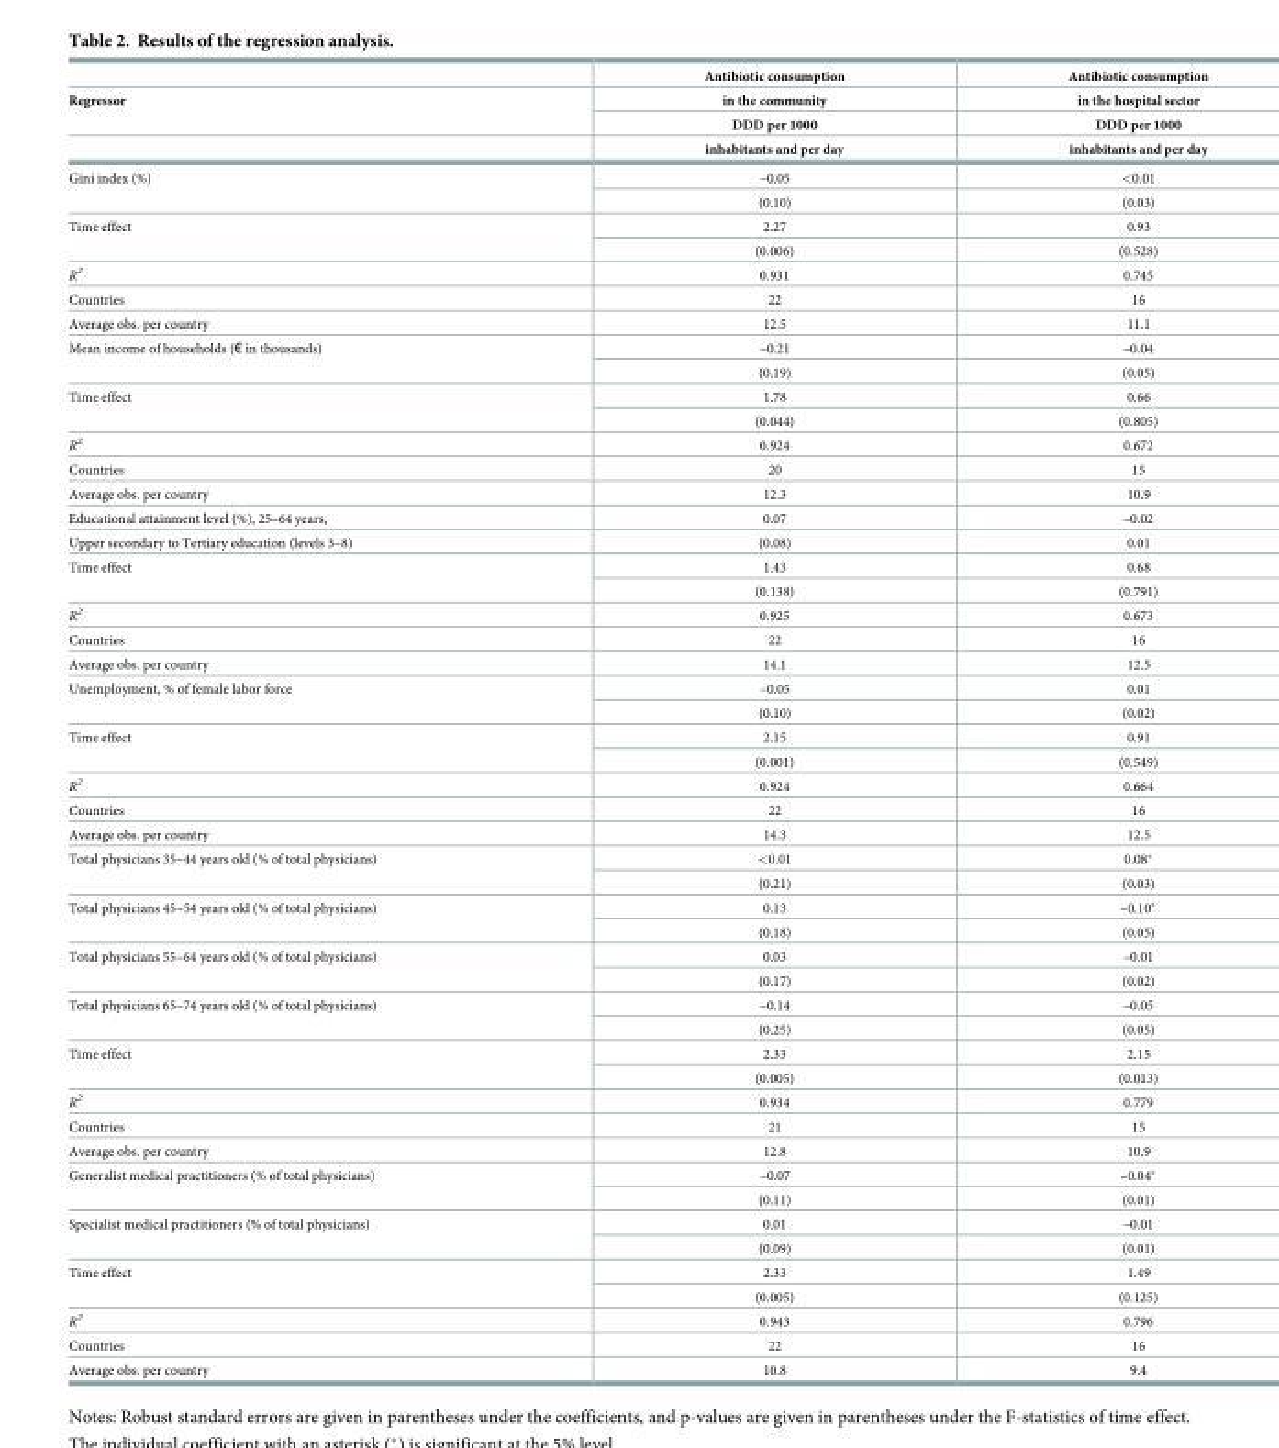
<table><thead><tr><td rowspan="4">Regressor</td><td rowspan="4">Antibiotic consumption in the community DDD per 1000 inhabitants and per day</td><td rowspan="4">Antibiotic consumption in the hospital sector DDD per 1000 inhabitants and per day</td></tr><tr></tr><tr></tr><tr></tr></thead><tbody><tr><td rowspan="2">Gini index (%)</td><td>–0.05</td><td>&lt;0.01</td></tr><tr><td>(0.10)</td><td>(0.03)</td></tr><tr><td rowspan="2">Time effect</td><td>2.27</td><td>0.93</td></tr><tr><td>(0.006)</td><td>(0.528)</td></tr><tr><td>R<sup>2</sup></td><td>0.931</td><td>0.745</td></tr><tr><td>Countries</td><td>22</td><td>16</td></tr><tr><td>Average obs. per country</td><td>12.5</td><td>11.1</td></tr><tr><td rowspan="2">Mean income of households (€ in thousands)</td><td>–0.21</td><td>–0.04</td></tr><tr><td>(0.19)</td><td>(0.05)</td></tr><tr><td rowspan="2">Time effect</td><td>1.78</td><td>0.66</td></tr><tr><td>(0.044)</td><td>(0.805)</td></tr><tr><td>R<sup>2</sup></td><td>0.924</td><td>0.672</td></tr><tr><td>Countries</td><td>20</td><td>15</td></tr><tr><td>Average obs. per country</td><td>12.3</td><td>10.9</td></tr><tr><td>Educational attainment level (%), 25–64 years,</td><td>0.07</td><td>–0.02</td></tr><tr><td>Upper secondary to Tertiary education (levels 3–8)</td><td>(0.08)</td><td>0.01</td></tr><tr><td rowspan="2">Time effect</td><td>1.43</td><td>0.68</td></tr><tr><td>(0.138)</td><td>(0.791)</td></tr><tr><td>R<sup>2</sup></td><td>0.925</td><td>0.673</td></tr><tr><td>Countries</td><td>22</td><td>16</td></tr><tr><td>Average obs. per country</td><td>14.1</td><td>12.5</td></tr><tr><td rowspan="2">Unemployment, % of female labor force</td><td>–0.05</td><td>0.01</td></tr><tr><td>(0.10)</td><td>(0.02)</td></tr><tr><td rowspan="2">Time effect</td><td>2.15</td><td>0.91</td></tr><tr><td>(0.001)</td><td>(0.549)</td></tr><tr><td>R<sup>2</sup></td><td>0.924</td><td>0.664</td></tr><tr><td>Countries</td><td>22</td><td>16</td></tr><tr><td>Average obs. per country</td><td>14.3</td><td>12.5</td></tr><tr><td rowspan="2">Total physicians 35–44 years old (% of total physicians)</td><td>&lt;0.01</td><td>0.08*</td></tr><tr><td>(0.21)</td><td>(0.03)</td></tr><tr><td rowspan="2">Total physicians 45–54 years old (% of total physicians)</td><td>0.13</td><td>–0.10*</td></tr><tr><td>(0.18)</td><td>(0.05)</td></tr><tr><td rowspan="2">Total physicians 55–64 years old (% of total physicians)</td><td>0.03</td><td>–0.01</td></tr><tr><td>(0.17)</td><td>(0.02)</td></tr><tr><td rowspan="2">Total physicians 65–74 years old (% of total physicians)</td><td>–0.14</td><td>–0.05</td></tr><tr><td>(0.25)</td><td>(0.05)</td></tr><tr><td rowspan="2">Time effect</td><td>2.33</td><td>2.15</td></tr><tr><td>(0.005)</td><td>(0.013)</td></tr><tr><td>R<sup>2</sup></td><td>0.934</td><td>0.779</td></tr><tr><td>Countries</td><td>21</td><td>15</td></tr><tr><td>Average obs. per country</td><td>12.8</td><td>10.9</td></tr><tr><td rowspan="2">Generalist medical practitioners (% of total physicians)</td><td>–0.07</td><td>–0.04*</td></tr><tr><td>(0.11)</td><td>(0.01)</td></tr><tr><td rowspan="2">Specialist medical practitioners (% of total physicians)</td><td>0.01</td><td>–0.01</td></tr><tr><td>(0.09)</td><td>(0.01)</td></tr><tr><td rowspan="2">Time effect</td><td>2.33</td><td>1.49</td></tr><tr><td>(0.005)</td><td>(0.125)</td></tr><tr><td>R<sup>2</sup></td><td>0.943</td><td>0.796</td></tr><tr><td>Countries</td><td>22</td><td>16</td></tr><tr><td>Average obs. per country</td><td>10.8</td><td>9.4</td></tr></tbody></table>